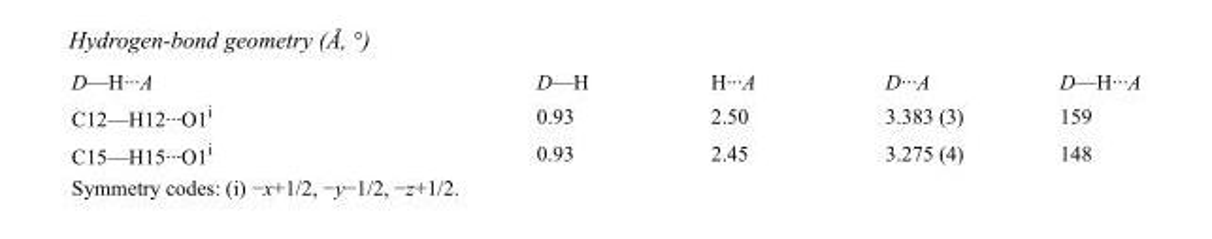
<table><tbody><tr><td>D—H···A</td><td>D—H</td><td>H···A</td><td>D···A</td><td>D—H···A</td></tr><tr><td>C12—H12···O1<sup>i</sup></td><td>0.93</td><td>2.50</td><td>3.383 (3)</td><td>159</td></tr><tr><td>C15—H15···O1<sup>i</sup></td><td>0.93</td><td>2.45</td><td>3.275 (4)</td><td>148</td></tr></tbody></table>